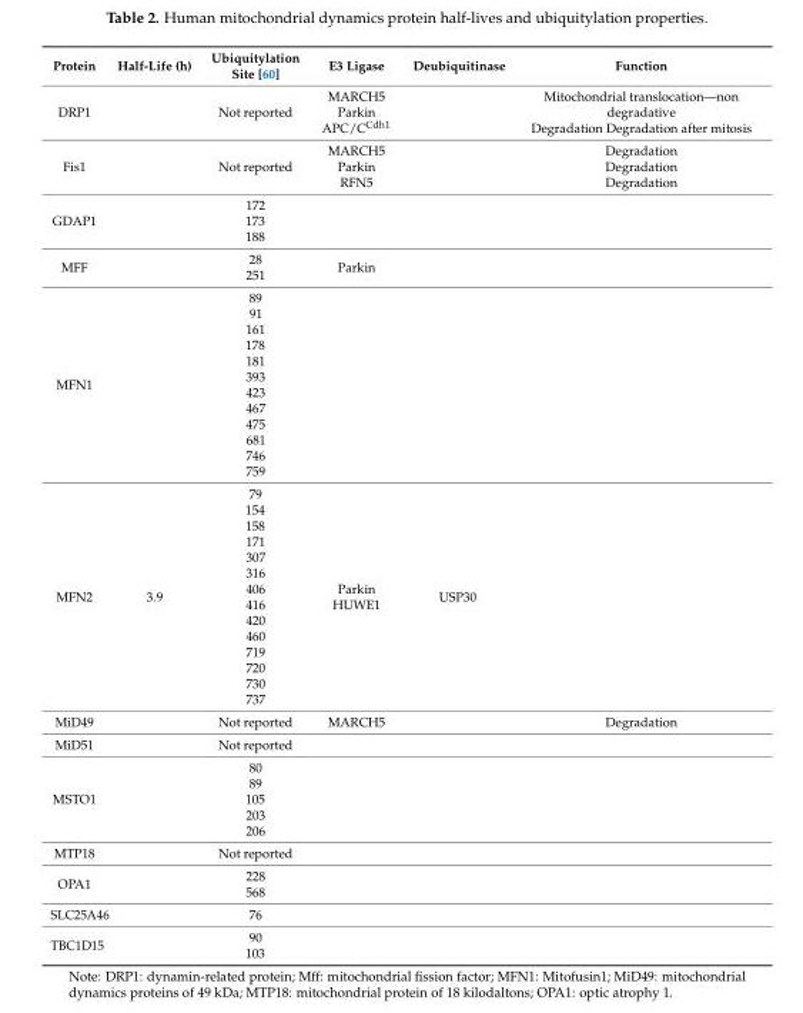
<table><thead><tr><td>Protein</td><td>Half-Life (h)</td><td>Ubiquitylation Site [60]</td><td>E3 Ligase</td><td>Deubiquitinase</td><td>Function</td></tr></thead><tbody><tr><td>DRP1</td><td></td><td>Not reported</td><td>MARCH5 Parkin APC/C<sup>Cdh1</sup></td><td></td><td>Mitochondrial translocation—non degradative Degradation Degradation after mitosis</td></tr><tr><td>Fis1</td><td></td><td>Not reported</td><td>MARCH5 Parkin RFN5</td><td></td><td>Degradation Degradation Degradation</td></tr><tr><td>GDAP1</td><td></td><td>172 173 188</td><td></td><td></td><td></td></tr><tr><td>MFF</td><td></td><td>28 251</td><td>Parkin</td><td></td><td></td></tr><tr><td>MFN1</td><td></td><td>89 91 161 178 181 393 423 467 475 681 746 759</td><td></td><td></td><td></td></tr><tr><td>MFN2</td><td>3.9</td><td>79 154 158 171 307 316 406 416 420 460 719 720 730 737</td><td>Parkin HUWE1</td><td>USP30</td><td></td></tr><tr><td>MiD49</td><td></td><td>Not reported</td><td>MARCH5</td><td></td><td>Degradation</td></tr><tr><td>MiD51</td><td></td><td>Not reported</td><td></td><td></td><td></td></tr><tr><td>MSTO1</td><td></td><td>80 89 105 203 206</td><td></td><td></td><td></td></tr><tr><td>MTP18</td><td></td><td>Not reported</td><td></td><td></td><td></td></tr><tr><td>OPA1</td><td></td><td>228 568</td><td></td><td></td><td></td></tr><tr><td>SLC25A46</td><td></td><td>76</td><td></td><td></td><td></td></tr><tr><td>TBC1D15</td><td></td><td>90 103</td><td></td><td></td><td></td></tr></tbody></table>